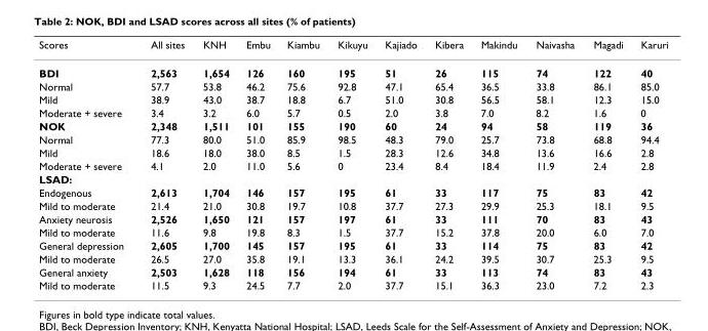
<table><thead><tr><td>Scores</td><td>All sites</td><td>KNH</td><td>Embu</td><td>Kiambu</td><td>Kikuyu</td><td>Kajiado</td><td>Kibera</td><td>Makindu</td><td>Naivasha</td><td>Magadi</td><td>Karuri</td></tr></thead><tbody><tr><td>BDI</td><td>2,563</td><td>1,654</td><td>126</td><td>160</td><td>195</td><td>51</td><td>26</td><td>115</td><td>74</td><td>122</td><td>40</td></tr><tr><td>Normal</td><td>57.7</td><td>53.8</td><td>46.2</td><td>75.6</td><td>92.8</td><td>47.1</td><td>65.4</td><td>36.5</td><td>33.8</td><td>86.1</td><td>85.0</td></tr><tr><td>Mild</td><td>38.9</td><td>43.0</td><td>38.7</td><td>18.8</td><td>6.7</td><td>51.0</td><td>30.8</td><td>56.5</td><td>58.1</td><td>12.3</td><td>15.0</td></tr><tr><td>Moderate + severe</td><td>3.4</td><td>3.2</td><td>6.0</td><td>5.7</td><td>0.5</td><td>2.0</td><td>3.8</td><td>7.0</td><td>8.2</td><td>1.6</td><td>0</td></tr><tr><td>NOK</td><td>2,348</td><td>1,511</td><td>101</td><td>155</td><td>190</td><td>60</td><td>24</td><td>94</td><td>58</td><td>119</td><td>36</td></tr><tr><td>Normal</td><td>77.3</td><td>80.0</td><td>51.0</td><td>85.9</td><td>98.5</td><td>48.3</td><td>79.0</td><td>25.7</td><td>73.8</td><td>68.8</td><td>94.4</td></tr><tr><td>Mild</td><td>18.6</td><td>18.0</td><td>38.0</td><td>8.5</td><td>1.5</td><td>28.3</td><td>12.6</td><td>34.8</td><td>13.6</td><td>16.6</td><td>2.8</td></tr><tr><td>Moderate + severe</td><td>4.1</td><td>2.0</td><td>11.0</td><td>5.6</td><td>0</td><td>23.4</td><td>8.4</td><td>18.4</td><td>11.9</td><td>2.4</td><td>2.8</td></tr><tr><td colspan="12">LSAD:</td></tr><tr><td>Endogenous</td><td>2,613</td><td>1,704</td><td>146</td><td>157</td><td>195</td><td>61</td><td>33</td><td>117</td><td>75</td><td>83</td><td>42</td></tr><tr><td>Mild to moderate</td><td>21.4</td><td>21.0</td><td>30.8</td><td>19.7</td><td>10.8</td><td>37.7</td><td>27.3</td><td>29.9</td><td>25.3</td><td>18.1</td><td>9.5</td></tr><tr><td>Anxiety neurosis</td><td>2,526</td><td>1,650</td><td>121</td><td>157</td><td>197</td><td>61</td><td>33</td><td>111</td><td>70</td><td>83</td><td>43</td></tr><tr><td>Mild to moderate</td><td>11.6</td><td>9.8</td><td>19.8</td><td>8.3</td><td>1.5</td><td>37.7</td><td>15.2</td><td>37.8</td><td>20.0</td><td>6.0</td><td>7.0</td></tr><tr><td>General depression</td><td>2,605</td><td>1,700</td><td>145</td><td>157</td><td>195</td><td>61</td><td>33</td><td>114</td><td>75</td><td>83</td><td>42</td></tr><tr><td>Mild to moderate</td><td>26.5</td><td>27.0</td><td>35.8</td><td>19.1</td><td>13.3</td><td>36.1</td><td>24.2</td><td>39.5</td><td>30.7</td><td>25.3</td><td>9.5</td></tr><tr><td>General anxiety</td><td>2,503</td><td>1,628</td><td>118</td><td>156</td><td>194</td><td>61</td><td>33</td><td>113</td><td>74</td><td>83</td><td>43</td></tr><tr><td>Mild to moderate</td><td>11.5</td><td>9.3</td><td>24.5</td><td>7.7</td><td>2.0</td><td>37.7</td><td>15.1</td><td>36.3</td><td>23.0</td><td>7.2</td><td>2.3</td></tr></tbody></table>